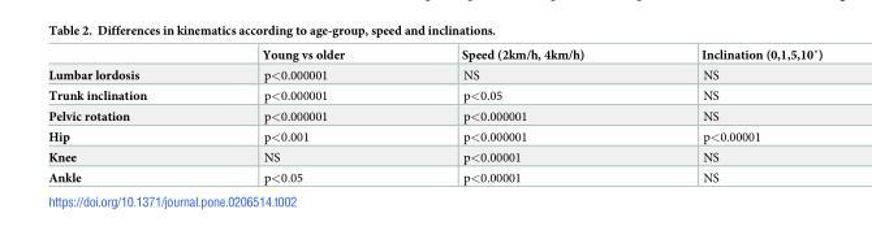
<table><thead><tr><td></td><td>Young vs older</td><td>Speed (2km/h, 4km/h)</td><td>Inclination (0,1,5,10˚)</td></tr></thead><tbody><tr><td>Lumbar lordosis</td><td>p&lt;0.000001</td><td>NS</td><td>NS</td></tr><tr><td>Trunk inclination</td><td>p&lt;0.000001</td><td>p&lt;0.05</td><td>NS</td></tr><tr><td>Pelvic rotation</td><td>p&lt;0.000001</td><td>p&lt;0.000001</td><td>NS</td></tr><tr><td>Hip</td><td>p&lt;0.001</td><td>p&lt;0.000001</td><td>p&lt;0.00001</td></tr><tr><td>Knee</td><td>NS</td><td>p&lt;0.00001</td><td>NS</td></tr><tr><td>Ankle</td><td>p&lt;0.05</td><td>p&lt;0.00001</td><td>NS</td></tr></tbody></table>